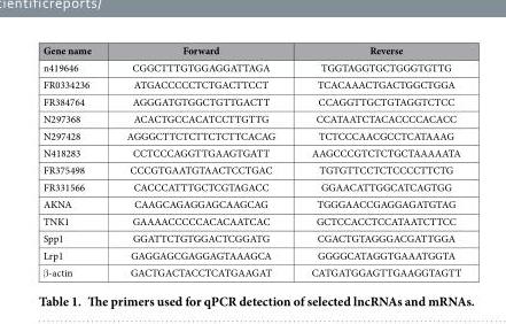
<table><thead><tr><td>Gene name</td><td>Forward</td><td>Reverse</td></tr></thead><tbody><tr><td>n419646</td><td>CGGCTTTGTGGAGGATTAGA</td><td>TGGTAGGTGCTGGGTGTTG</td></tr><tr><td>FR0334236</td><td>ATGACCCCCTCTGACTTCCT</td><td>TCACAAACTGACTGGCTGGA</td></tr><tr><td>FR384764</td><td>AGGGATGTGGCTGTTGACTT</td><td>CCAGGTTGCTGTAGGTCTCC</td></tr><tr><td>N297368</td><td>ACACTGCCACATCCTTGTTG</td><td>CCATAATCTACACCCCACACC</td></tr><tr><td>N297428</td><td>AGGGCTTCTCTTCTCTTCACAG</td><td>TCTCCCAACGCCTCATAAAG</td></tr><tr><td>N418283</td><td>CCTCCCAGGTTGAAGTGATT</td><td>AAGCCCGTCTCTGCTAAAAATA</td></tr><tr><td>FR375498</td><td>CCCGTGAATGTAACTCCTGAC</td><td>TGTGTTCCTCTCCCCTTCTG</td></tr><tr><td>FR331566</td><td>CACCCATTTGCTCGTAGACC</td><td>GGAACATTGGCATCAGTGG</td></tr><tr><td>AKNA</td><td>CAAGCAGAGGAGCAAGCAG</td><td>TGGGAACCGAGGAGATGTAG</td></tr><tr><td>TNK1</td><td>GAAAACCCCCACACAATCAC</td><td>GCTCCACCTCCATAATCTTCC</td></tr><tr><td>Spp1</td><td>GGATTCTGTGGACTCGGATG</td><td>CGACTGTAGGGACGATTGGA</td></tr><tr><td>Lrp1</td><td>GAGGAGCGAGGAGTAAAGCA</td><td>GGGGCATAGGTGAAATGGTA</td></tr><tr><td>β -actin</td><td>GACTGACTACCTCATGAAGAT</td><td>CATGATGGAGTTGAAGGTAGTT</td></tr></tbody></table>